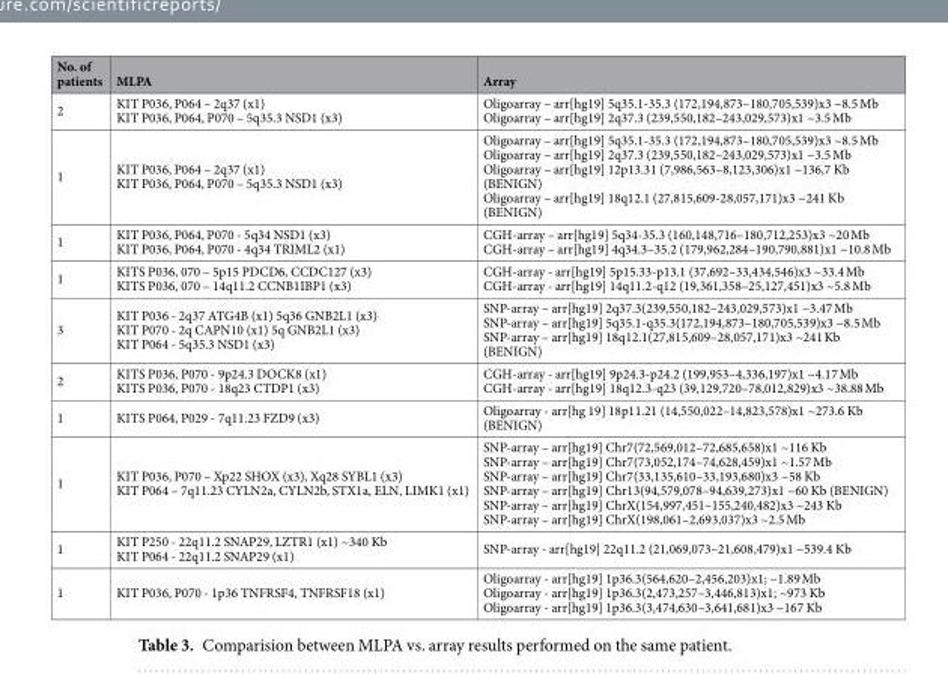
<table><thead><tr><td>No. of patients</td><td>MLPA</td><td>Array</td></tr></thead><tbody><tr><td>2</td><td>KIT P036, P064 – 2q37 (x1) KIT P036, P064, P070 – 5q35.3 NSD1 (x3)</td><td>Oligoarray – arr[hg19] 5q35.1-35.3 (172,194,873–180,705,539)x3 ~8.5 Mb Oligoarray – arr[hg19] 2q37.3 (239,550,182–243,029,573)x1 ~3.5 Mb</td></tr><tr><td>1</td><td>KIT P036, P064 – 2q37 (x1) KIT P036, P064, P070 – 5q35.3 NSD1 (x3)</td><td>Oligoarray – arr[hg19] 5q35.1-35.3 (172,194,873–180,705,539)x3 ~8.5 Mb Oligoarray – arr[hg19] 2q37.3 (239,550,182–243,029,573)x1 ~3.5 Mb Oligoarray – arr[hg19] 12p13.31 (7,986,563–8,123,306)x1 ~136,7 Kb (BENIGN) Oligoarray – arr[hg19] 18q12.1 (27,815,609-28,057,171)x3 ~241 Kb (BENIGN)</td></tr><tr><td>1</td><td>KIT P036, P064, P070 - 5q34 NSD1 (x3) KIT P036, P064, P070 - 4q34 TRIML2 (x1)</td><td>CGH-array – arr[hg19] 5q34-35.3 (160,148,716–180,712,253)x3 ~20 Mb CGH-array – arr[hg19] 4q34.3–35.2 (179,962,284–190,790,881)x1 ~10.8 Mb</td></tr><tr><td>1</td><td>KITS P036, 070 – 5p15 PDCD6, CCDC127 (x3) KITS P036, 070 – 14q11.2 CCNB1IBP1 (x3)</td><td>CGH-array - arr[hg19] 5p15.33-p13.1 (37,692–33,434,546)x3 ~33.4 Mb CGH-array - arr[hg19] 14q11.2-q12 (19,361,358–25,127,451)x3 ~5.8 Mb</td></tr><tr><td>3</td><td>KIT P036 - 2q37 ATG4B (x1) 5q36 GNB2L1 (x3) KIT P070 - 2q CAPN10 (x1) 5q GNB2L1 (x3) KIT P064 - 5q35.3 NSD1 (x3)</td><td>SNP-array – arr[hg19] 2q37.3(239,550,182–243,029,573)x1 ~3.47 Mb SNP-array – arr[hg19] 5q35.1-q35.3(172,194,873–180,705,539)x3 ~8.5 Mb SNP-array – arr[hg19] 18q12.1(27,815,609–28,057,171)x3 ~241 Kb (BENIGN)</td></tr><tr><td>2</td><td>KITS P036, P070 - 9p24.3 DOCK8 (x1) KITS P036, P070 - 18q23 CTDP1 (x3)</td><td>CGH-array - arr[hg19] 9p24.3-p24.2 (199,953–4,336,197)x1 ~4.17 Mb CGH-array - arr[hg19] 18q12.3-q23 (39,129,720–78,012,829)x3 ~38.88 Mb</td></tr><tr><td>1</td><td>KITS P064, P029 - 7q11.23 FZD9 (x3)</td><td>Oligoarray - arr[hg 19] 18p11.21 (14,550,022–14,823,578)x1 ~273.6 Kb (BENIGN)</td></tr><tr><td>1</td><td>KIT P036, P070 – Xp22 SHOX (x3), Xq28 SYBL1 (x3) KIT P064 – 7q11.23 CYLN2a, CYLN2b, STX1a, ELN, LIMK1 (x1)</td><td>SNP-array – arr[hg19] Chr7(72,569,012–72,685,658)x1 ~116 Kb SNP-array – arr[hg19] Chr7(73,052,174–74,628,459)x1 ~1.57 Mb SNP-array – arr[hg19] Chr7(33,135,610–33,193,680)x3 ~58 Kb SNP-array – arr[hg19] Chr13(94,579,078–94,639,273)x1 ~60 Kb (BENIGN) SNP-array – arr[hg19] ChrX(154,997,451–155,240,482)x3 ~243 Kb SNP-array – arr[hg19] ChrX(198,061–2,693,037)x3 ~2.5 Mb</td></tr><tr><td>1</td><td>KIT P250 - 22q11.2 SNAP29, LZTR1 (x1) ~340 Kb KIT P064 - 22q11.2 SNAP29 (x1)</td><td>SNP-array - arr[hg19] 22q11.2 (21,069,073–21,608,479)x1 ~539.4 Kb</td></tr><tr><td>1</td><td>KIT P036, P070 - 1p36 TNFRSF4, TNFRSF18 (x1)</td><td>Oligoarray - arr[hg19] 1p36.3(564,620–2,456,203)x1; ~1.89 Mb Oligoarray - arr[hg19] 1p36.3(2,473,257–3,446,813)x1; ~973 Kb Oligoarray - arr[hg19] 1p36.3(3,474,630–3,641,681)x3 ~167 Kb</td></tr></tbody></table>